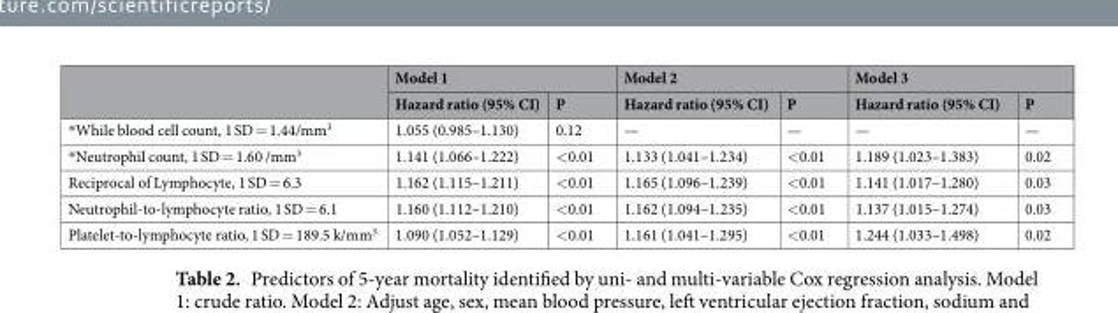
<table><thead><tr><td rowspan="2"></td><td colspan="2">Model 1</td><td colspan="2">Model 2</td><td colspan="2">Model 3</td></tr><tr><td>Hazard ratio (95% CI)</td><td>P</td><td>Hazard ratio (95% CI)</td><td>P</td><td>Hazard ratio (95% CI)</td><td>P</td></tr></thead><tbody><tr><td>*While blood cell count, 1 SD = 1.44/mm<sup>3</sup></td><td>1.055 (0.985–1.130)</td><td>0.12</td><td>—</td><td>—</td><td>—</td><td>—</td></tr><tr><td>*Neutrophil count, 1 SD = 1.60 /mm<sup>3</sup></td><td>1.141 (1.066–1.222)</td><td>&lt;0.01</td><td>1.133 (1.041–1.234)</td><td>&lt;0.01</td><td>1.189 (1.023–1.383)</td><td>0.02</td></tr><tr><td>Reciprocal of Lymphocyte, 1 SD = 6.3</td><td>1.162 (1.115–1.211)</td><td>&lt;0.01</td><td>1.165 (1.096–1.239)</td><td>&lt;0.01</td><td>1.141 (1.017–1.280)</td><td>0.03</td></tr><tr><td>Neutrophil-to-lymphocyte ratio, 1 SD = 6.1</td><td>1.160 (1.112–1.210)</td><td>&lt;0.01</td><td>1.162 (1.094–1.235)</td><td>&lt;0.01</td><td>1.137 (1.015–1.274)</td><td>0.03</td></tr><tr><td>Platelet-to-lymphocyte ratio, 1 SD = 189.5 k/mm<sup>3</sup></td><td>1.090 (1.052–1.129)</td><td>&lt;0.01</td><td>1.161 (1.041–1.295)</td><td>&lt;0.01</td><td>1.244 (1.033–1.498)</td><td>0.02</td></tr></tbody></table>